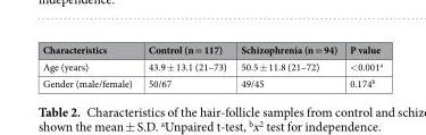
<table><thead><tr><td>Characteristics</td><td>Control (n = 117)</td><td>Schizophrenia (n = 94)</td><td>P value</td></tr></thead><tbody><tr><td>Age (years)</td><td>43.9 ± 13.1 (21–73)</td><td>50.5 ± 11.8 (21–72)</td><td>&lt;0.001<sup>a</sup></td></tr><tr><td>Gender (male/female)</td><td>50/67</td><td>49/45</td><td>0.174<sup>b</sup></td></tr></tbody></table>